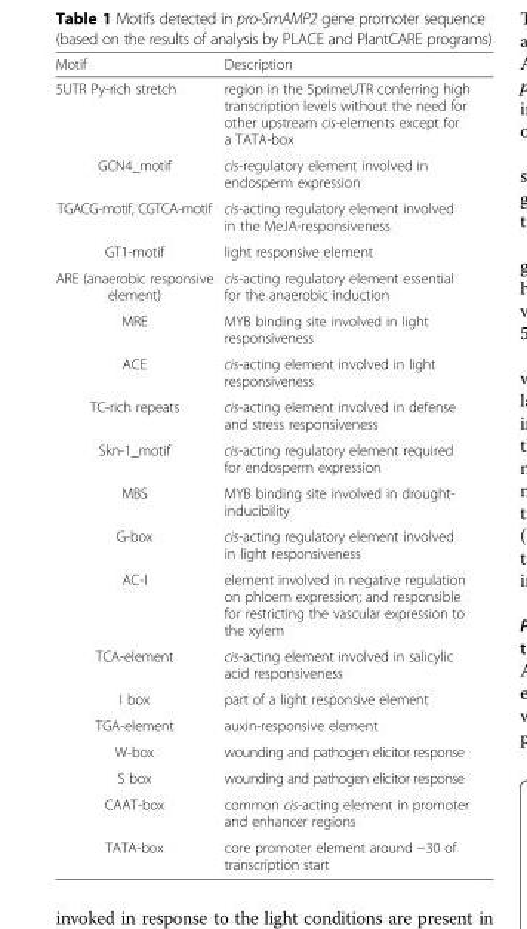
<table><thead><tr><td>Motif</td><td>Description</td></tr></thead><tbody><tr><td>5UTR Py-rich stretch</td><td>region in the 5primeUTR conferring high transcription levels without the need for other upstream cis-elements except for a TATA-box</td></tr><tr><td>GCN4_motif</td><td>cis-regulatory element involved in endosperm expression</td></tr><tr><td>TGACG-motif, CGTCA-motif</td><td>cis-acting regulatory element involved in the MeJA-responsiveness</td></tr><tr><td>GT1-motif</td><td>light responsive element</td></tr><tr><td>ARE (anaerobic responsive element)</td><td>cis-acting regulatory element essential for the anaerobic induction</td></tr><tr><td>MRE</td><td>MYB binding site involved in light responsiveness</td></tr><tr><td>ACE</td><td>cis-acting element involved in light responsiveness</td></tr><tr><td>TC-rich repeats</td><td>cis-acting element involved in defense and stress responsiveness</td></tr><tr><td>Skn-1_motif</td><td>cis-acting regulatory element required for endosperm expression</td></tr><tr><td>MBS</td><td>MYB binding site involved in drought- inducibility</td></tr><tr><td>G-box</td><td>cis-acting regulatory element involved in light responsiveness</td></tr><tr><td>AC-I</td><td>element involved in negative regulation on phloem expression; and responsible for restricting the vascular expression to the xylem</td></tr><tr><td>TCA-element</td><td>cis-acting element involved in salicylic acid responsiveness</td></tr><tr><td>I box</td><td>part of a light responsive element</td></tr><tr><td>TGA-element</td><td>auxin-responsive element</td></tr><tr><td>W-box</td><td>wounding and pathogen elicitor response</td></tr><tr><td>S box</td><td>wounding and pathogen elicitor response</td></tr><tr><td>CAAT-box</td><td>common cis-acting element in promoter and enhancer regions</td></tr><tr><td>TATA-box</td><td>core promoter element around −30 of transcription start</td></tr></tbody></table>